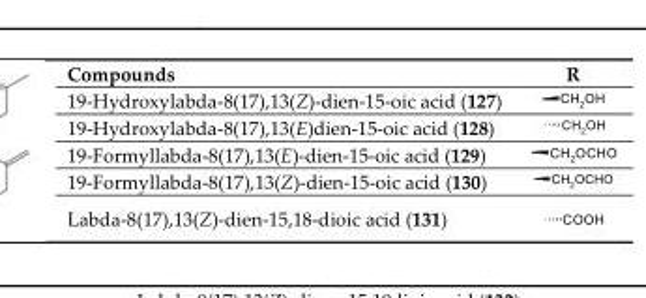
<table><tbody><tr><td>Compounds</td><td>R</td></tr><tr><td colspan="2">19-Hydroxylabda-8(17),13(Z)-dien-15-oic acid (127)</td></tr><tr><td colspan="2">19-Hydroxylabda-8(17),13(E)dien-15-oic acid (128)</td></tr><tr><td colspan="2">19-Formyllabda-8(17),13(E)-dien-15-oic acid (129)</td></tr><tr><td colspan="2">19-Formyllabda-8(17),13(Z)-dien-15-oic acid (130)</td></tr><tr><td>Labda-8(17),13(Z)-dien-15,18-dioic acid (131)</td><td></td></tr></tbody></table>